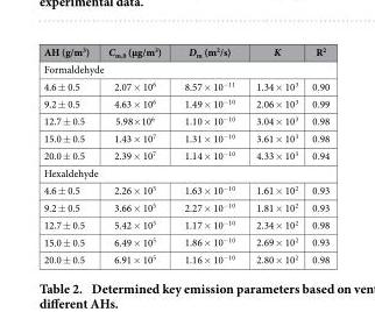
<table><thead><tr><td>AH (g/m<sup>3</sup>)</td><td>C<sub>m,0</sub> (μg/m<sup>3</sup>)</td><td>D<sub>m</sub> (m<sup>2</sup>/s)</td><td>K</td><td>R<sup>2</sup></td></tr></thead><tbody><tr><td colspan="5">Formaldehyde</td></tr><tr><td>4.6 ± 0.5</td><td>2.07 × 10<sup>6</sup></td><td>8.57 × 10<sup>−11</sup></td><td>1.34 × 10<sup>3</sup></td><td>0.90</td></tr><tr><td>9.2 ± 0.5</td><td>4.63 × 10<sup>6</sup></td><td>1.49 × 10<sup>−10</sup></td><td>2.06 × 10<sup>3</sup></td><td>0.99</td></tr><tr><td>12.7 ± 0.5</td><td>5.98× 10<sup>6</sup></td><td>1.10 × 10<sup>−10</sup></td><td>3.04 × 10<sup>3</sup></td><td>0.98</td></tr><tr><td>15.0 ± 0.5</td><td>1.43 × 10<sup>7</sup></td><td>1.31 × 10<sup>−10</sup></td><td>3.61 × 10<sup>3</sup></td><td>0.98</td></tr><tr><td>20.0 ± 0.5</td><td>2.39 × 10<sup>7</sup></td><td>1.14 × 10<sup>−10</sup></td><td>4.33 × 10<sup>3</sup></td><td>0.94</td></tr><tr><td colspan="5">Hexaldehyde</td></tr><tr><td>4.6 ± 0.5</td><td>2.26 × 10<sup>5</sup></td><td>1.63 × 10<sup>−10</sup></td><td>1.61 × 10<sup>2</sup></td><td>0.93</td></tr><tr><td>9.2 ± 0.5</td><td>3.66 × 10<sup>5</sup></td><td>2.27 × 10<sup>−10</sup></td><td>1.81 × 10<sup>2</sup></td><td>0.93</td></tr><tr><td>12.7 ± 0.5</td><td>5.42 × 10<sup>5</sup></td><td>1.17 × 10<sup>−10</sup></td><td>2.34 × 10<sup>2</sup></td><td>0.98</td></tr><tr><td>15.0 ± 0.5</td><td>6.49 × 10<sup>5</sup></td><td>1.86 × 10<sup>−10</sup></td><td>2.69 × 10<sup>2</sup></td><td>0.93</td></tr><tr><td>20.0 ± 0.5</td><td>6.91 × 10<sup>5</sup></td><td>1.16 × 10<sup>−10</sup></td><td>2.80 × 10<sup>2</sup></td><td>0.98</td></tr></tbody></table>